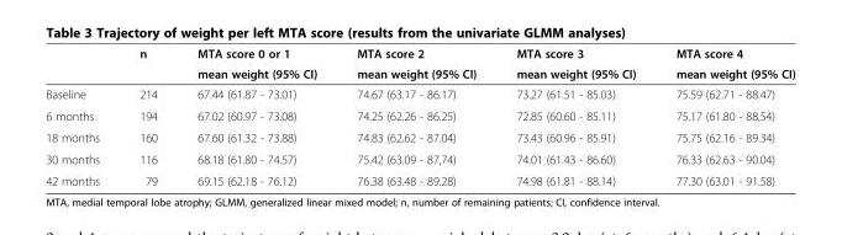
<table><thead><tr><td rowspan="2"></td><td rowspan="2">n</td><td rowspan="2">MTA score 0 or 1 mean weight (95% CI)</td><td rowspan="2">MTA score 2 mean weight (95% CI)</td><td rowspan="2">MTA score 3 mean weight (95% CI)</td><td rowspan="2">MTA score 4 mean weight (95% CI)</td></tr><tr></tr></thead><tbody><tr><td>Baseline</td><td>214</td><td>67.44 (61.87 - 73.01)</td><td>74.67 (63.17 - 86.17)</td><td>73.27 (61.51 - 85.03)</td><td>75.59 (62.71 - 88.47)</td></tr><tr><td>6 months</td><td>194</td><td>67.02 (60.97 - 73.08)</td><td>74.25 (62.26 - 86.25)</td><td>72.85 (60.60 - 85.11)</td><td>75.17 (61.80 - 88,54)</td></tr><tr><td>18 months</td><td>160</td><td>67.60 (61.32 - 73.88)</td><td>74.83 (62.62 - 87.04)</td><td>73.43 (60.96 - 85.91)</td><td>75.75 (62.16 - 89.34)</td></tr><tr><td>30 months</td><td>116</td><td>68.18 (61.80 - 74.57)</td><td>75.42 (63.09 - 87,74)</td><td>74.01 (61.43 - 86.60)</td><td>76.33 (62.63 - 90.04)</td></tr><tr><td>42 months</td><td>79</td><td>69.15 (62.18 - 76.12)</td><td>76.38 (63.48 - 89.28)</td><td>74.98 (61.81 - 88.14)</td><td>77.30 (63.01 - 91.58)</td></tr></tbody></table>